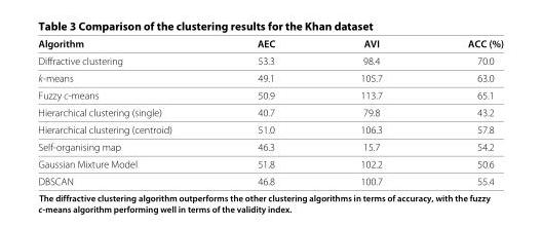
<table><thead><tr><td>Algorithm</td><td>AEC</td><td>AVI</td><td>ACC (%)</td></tr></thead><tbody><tr><td>Diffractive clustering</td><td>53.3</td><td>98.4</td><td>70.0</td></tr><tr><td>k-means</td><td>49.1</td><td>105.7</td><td>63.0</td></tr><tr><td>Fuzzy c-means</td><td>50.9</td><td>113.7</td><td>65.1</td></tr><tr><td>Hierarchical clustering (single)</td><td>40.7</td><td>79.8</td><td>43.2</td></tr><tr><td>Hierarchical clustering (centroid)</td><td>51.0</td><td>106.3</td><td>57.8</td></tr><tr><td>Self-organising map</td><td>46.3</td><td>15.7</td><td>54.2</td></tr><tr><td>Gaussian Mixture Model</td><td>51.8</td><td>102.2</td><td>50.6</td></tr><tr><td>DBSCAN</td><td>46.8</td><td>100.7</td><td>55.4</td></tr></tbody></table>